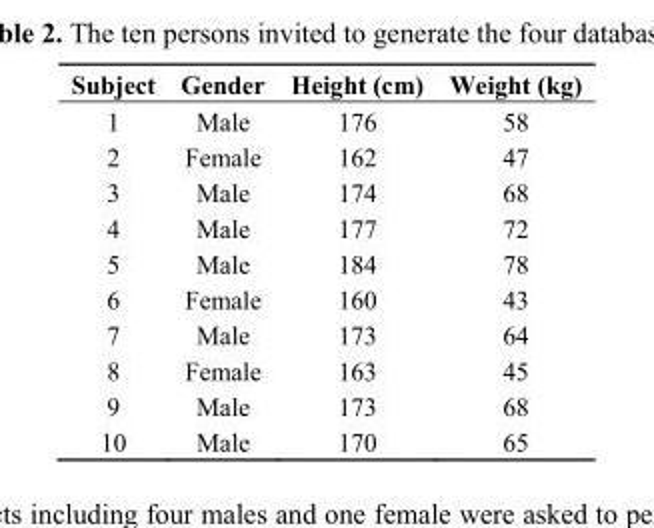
<table><thead><tr><td>Subject</td><td>Gender</td><td>Height (cm)</td><td>Weight (kg)</td></tr></thead><tbody><tr><td>1</td><td>Male</td><td>176</td><td>58</td></tr><tr><td>2</td><td>Female</td><td>162</td><td>47</td></tr><tr><td>3</td><td>Male</td><td>174</td><td>68</td></tr><tr><td>4</td><td>Male</td><td>177</td><td>72</td></tr><tr><td>5</td><td>Male</td><td>184</td><td>78</td></tr><tr><td>6</td><td>Female</td><td>160</td><td>43</td></tr><tr><td>7</td><td>Male</td><td>173</td><td>64</td></tr><tr><td>8</td><td>Female</td><td>163</td><td>45</td></tr><tr><td>9</td><td>Male</td><td>173</td><td>68</td></tr><tr><td>10</td><td>Male</td><td>170</td><td>65</td></tr></tbody></table>